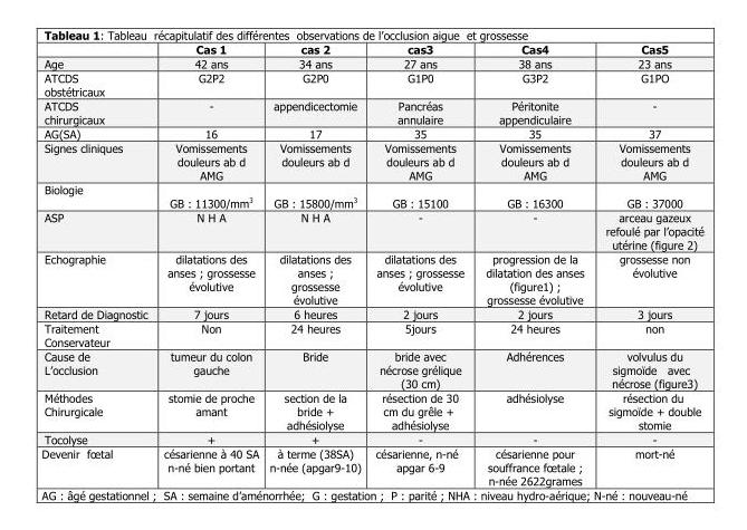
<table><thead><tr><td></td><td>Cas 1</td><td>cas 2</td><td>cas3</td><td>Cas4</td><td>Cas5</td></tr></thead><tbody><tr><td>Age</td><td>42 ans</td><td>34 ans</td><td>27 ans</td><td>38 ans</td><td>23 ans</td></tr><tr><td>ATCDS obstétricaux</td><td>G2P2</td><td>G2P0</td><td>G1P0</td><td>G3P2</td><td>G1PO</td></tr><tr><td>ATCDS chirurgicaux</td><td>-</td><td>appendicectomie</td><td>Pancréas annulaire</td><td>Péritonite appendiculaire</td><td>-</td></tr><tr><td>AG(SA)</td><td>16</td><td>17</td><td>35</td><td>35</td><td>37</td></tr><tr><td>Signes cliniques</td><td>Vomissements douleurs ab d AMG</td><td>Vomissements douleurs ab d</td><td>Vomissements douleurs ab d AMG</td><td>Vomissements douleurs ab d AMG</td><td>Vomissements douleurs ab d AMG</td></tr><tr><td>Biologie</td><td>GB : 11300/mm<sup>3</sup></td><td>GB : 15800/mm<sup>3</sup></td><td>GB : 15100</td><td>GB : 16300</td><td>GB : 37000</td></tr><tr><td>ASP</td><td>N H A</td><td>N H A</td><td>-</td><td>-</td><td>arceau gazeux refoulé par l’opacité utérine (figure 2)</td></tr><tr><td>Echographie</td><td>dilatations des anses ; grossesse évolutive</td><td>dilatations des anses ; grossesse évolutive</td><td>dilatations des anses ; grossesse évolutive</td><td>progression de la dilatation des anses (figure1) ; grossesse évolutive</td><td>grossesse non évolutive</td></tr><tr><td>Retard de Diagnostic</td><td>7 jours</td><td>6 heures</td><td>2 jours</td><td>2 jours</td><td>3 jours</td></tr><tr><td>Traitement Conservateur</td><td>Non</td><td>24 heures</td><td>5jours</td><td>24 heures</td><td>non</td></tr><tr><td>Cause de L’occlusion</td><td>tumeur du colon gauche</td><td>Bride</td><td>bride avec nécrose grélique (30 cm)</td><td>Adhérences</td><td>volvulus du sigmoïde avec nécrose (figure3)</td></tr><tr><td>Méthodes Chirurgicale</td><td>stomie de proche amant</td><td>section de la bride + adhésiolyse</td><td>résection de 30 cm du grêle + adhésiolyse</td><td>adhésiolyse</td><td>résection du sigmoïde + double stomie</td></tr><tr><td>Tocolyse</td><td>+</td><td>+</td><td>-</td><td>-</td><td>-</td></tr><tr><td>Devenir fœtal</td><td>césarienne à 40 SA n-né bien portant</td><td>à terme (38SA) n-née (apgar9-10)</td><td>césarienne, n-né apgar 6-9</td><td>césarienne pour souffrance fœtale ; n-née 2622grames</td><td>mort-né</td></tr></tbody></table>